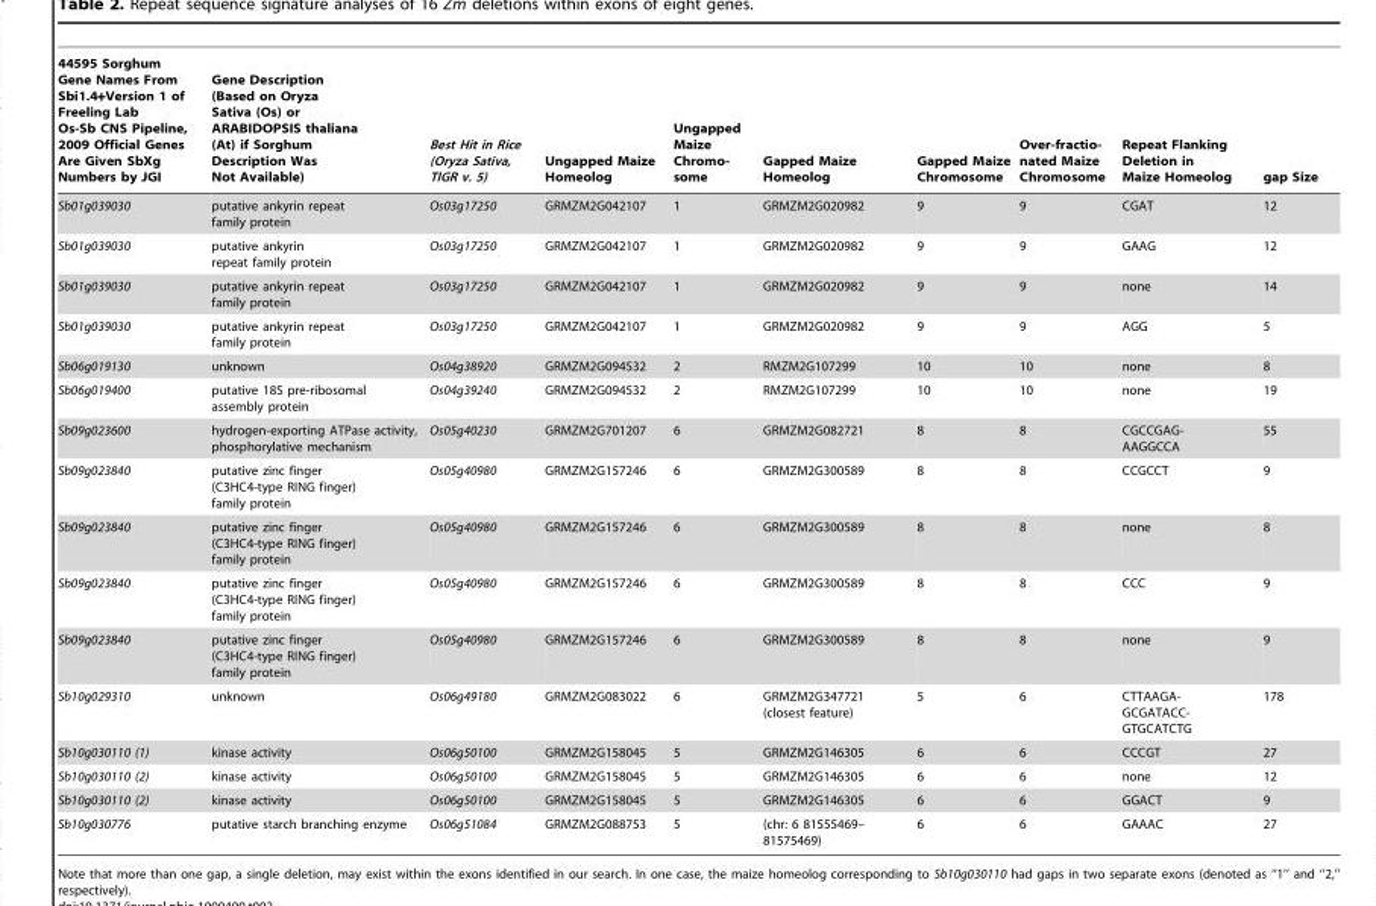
<table><thead><tr><td>44595 Sorghum Gene Names From Sbi1.4+Version 1 of Freeling Lab Os-Sb CNS Pipeline, 2009 Official Genes Are Given SbXg Numbers by JGI</td><td>Gene Description (Based on Oryza Sativa (Os) or ARABIDOPSIS thaliana (At) if Sorghum Description Was Not Available)</td><td>Best Hit in Rice (Oryza Sativa, TIGR v. 5)</td><td>Ungapped Maize Homeolog</td><td>Ungapped Maize Chromo- some</td><td>Gapped Maize Homeolog</td><td>Gapped Maize Chromosome</td><td>Over-fractio- nated Maize Chromosome</td><td>Repeat Flanking Deletion in Maize Homeolog</td><td>gap Size</td></tr></thead><tbody><tr><td>Sb01g039030</td><td>putative ankyrin repeat family protein</td><td>Os03g17250</td><td>GRMZM2G042107</td><td>1</td><td>GRMZM2G020982</td><td>9</td><td>9</td><td>CGAT</td><td>12</td></tr><tr><td>Sb01g039030</td><td>putative ankyrin repeat family protein</td><td>Os03g17250</td><td>GRMZM2G042107</td><td>1</td><td>GRMZM2G020982</td><td>9</td><td>9</td><td>GAAG</td><td>12</td></tr><tr><td>Sb01g039030</td><td>putative ankyrin repeat family protein</td><td>Os03g17250</td><td>GRMZM2G042107</td><td>1</td><td>GRMZM2G020982</td><td>9</td><td>9</td><td>none</td><td>14</td></tr><tr><td>Sb01g039030</td><td>putative ankyrin repeat family protein</td><td>Os03g17250</td><td>GRMZM2G042107</td><td>1</td><td>GRMZM2G020982</td><td>9</td><td>9</td><td>AGG</td><td>5</td></tr><tr><td>Sb06g019130</td><td>unknown</td><td>Os04g38920</td><td>GRMZM2G094532</td><td>2</td><td>RMZM2G107299</td><td>10</td><td>10</td><td>none</td><td>8</td></tr><tr><td>Sb06g019400</td><td>putative 18S pre-ribosomal assembly protein</td><td>Os04g39240</td><td>GRMZM2G094532</td><td>2</td><td>RMZM2G107299</td><td>10</td><td>10</td><td>none</td><td>19</td></tr><tr><td>Sb09g023600</td><td>hydrogen-exporting ATPase activity, phosphorylative mechanism</td><td>Os05g40230</td><td>GRMZM2G701207</td><td>6</td><td>GRMZM2G082721</td><td>8</td><td>8</td><td>CGCCGAG- AAGGCCA</td><td>55</td></tr><tr><td>Sb09g023840</td><td>putative zinc finger (C3HC4-type RING finger) family protein</td><td>Os05g40980</td><td>GRMZM2G157246</td><td>6</td><td>GRMZM2G300589</td><td>8</td><td>8</td><td>CCGCCT</td><td>9</td></tr><tr><td>Sb09g023840</td><td>putative zinc finger (C3HC4-type RING finger) family protein</td><td>Os05g40980</td><td>GRMZM2G157246</td><td>6</td><td>GRMZM2G300589</td><td>8</td><td>8</td><td>none</td><td>8</td></tr><tr><td>Sb09g023840</td><td>putative zinc finger (C3HC4-type RING finger) family protein</td><td>Os05g40980</td><td>GRMZM2G157246</td><td>6</td><td>GRMZM2G300589</td><td>8</td><td>8</td><td>CCC</td><td>9</td></tr><tr><td>Sb09g023840</td><td>putative zinc finger (C3HC4-type RING finger) family protein</td><td>Os05g40980</td><td>GRMZM2G157246</td><td>6</td><td>GRMZM2G300589</td><td>8</td><td>8</td><td>none</td><td>9</td></tr><tr><td>Sb10g029310</td><td>unknown</td><td>Os06g49180</td><td>GRMZM2G083022</td><td>6</td><td>GRMZM2G347721 (closest feature)</td><td>5</td><td>6</td><td>CTTAAGA- GCGATACC- GTGCATCTG</td><td>178</td></tr><tr><td>Sb10g030110 (1)</td><td>kinase activity</td><td>Os06g50100</td><td>GRMZM2G158045</td><td>5</td><td>GRMZM2G146305</td><td>6</td><td>6</td><td>CCCGT</td><td>27</td></tr><tr><td>Sb10g030110 (2)</td><td>kinase activity</td><td>Os06g50100</td><td>GRMZM2G158045</td><td>5</td><td>GRMZM2G146305</td><td>6</td><td>6</td><td>none</td><td>12</td></tr><tr><td>Sb10g030110 (2)</td><td>kinase activity</td><td>Os06g50100</td><td>GRMZM2G158045</td><td>5</td><td>GRMZM2G146305</td><td>6</td><td>6</td><td>GGACT</td><td>9</td></tr><tr><td>Sb10g030776</td><td>putative starch branching enzyme</td><td>Os06g51084</td><td>GRMZM2G088753</td><td>5</td><td>(chr: 6 81555469– 81575469)</td><td>6</td><td>6</td><td>GAAAC</td><td>27</td></tr></tbody></table>